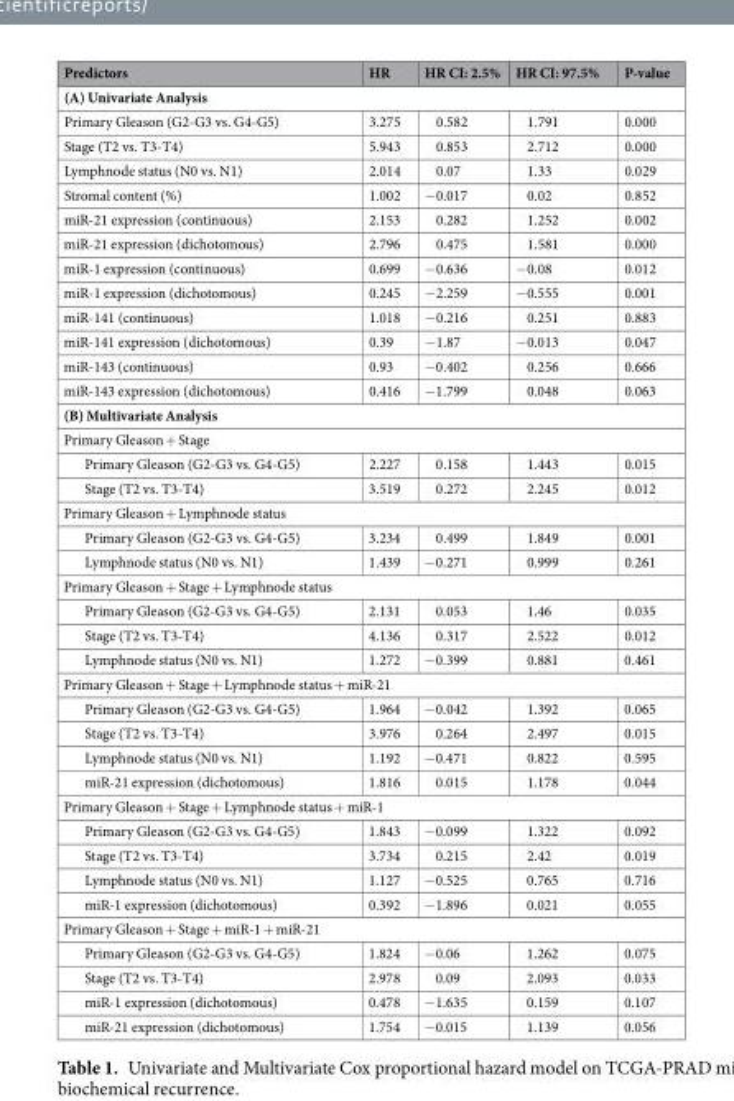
<table><thead><tr><td>Predictors</td><td>HR</td><td>HR CI: 2.5%</td><td>HR CI: 97.5%</td><td>P-value</td></tr></thead><tbody><tr><td colspan="5">(A) Univariate Analysis</td></tr><tr><td>Primary Gleason (G2-G3 vs. G4-G5)</td><td>3.275</td><td>0.582</td><td>1.791</td><td>0.000</td></tr><tr><td>Stage (T2 vs. T3-T4)</td><td>5.943</td><td>0.853</td><td>2.712</td><td>0.000</td></tr><tr><td>Lymphnode status (N0 vs. N1)</td><td>2.014</td><td>0.07</td><td>1.33</td><td>0.029</td></tr><tr><td>Stromal content (%)</td><td>1.002</td><td>−0.017</td><td>0.02</td><td>0.852</td></tr><tr><td>miR-21 expression (continuous)</td><td>2.153</td><td>0.282</td><td>1.252</td><td>0.002</td></tr><tr><td>miR-21 expression (dichotomous)</td><td>2.796</td><td>0.475</td><td>1.581</td><td>0.000</td></tr><tr><td>miR-1 expression (continuous)</td><td>0.699</td><td>−0.636</td><td>−0.08</td><td>0.012</td></tr><tr><td>miR-1 expression (dichotomous)</td><td>0.245</td><td>−2.259</td><td>−0.555</td><td>0.001</td></tr><tr><td>miR-141 (continuous)</td><td>1.018</td><td>−0.216</td><td>0.251</td><td>0.883</td></tr><tr><td>miR-141 expression (dichotomous)</td><td>0.39</td><td>−1.87</td><td>−0.013</td><td>0.047</td></tr><tr><td>miR-143 (continuous)</td><td>0.93</td><td>−0.402</td><td>0.256</td><td>0.666</td></tr><tr><td>miR-143 expression (dichotomous)</td><td>0.416</td><td>−1.799</td><td>0.048</td><td>0.063</td></tr><tr><td colspan="5">(B) Multivariate Analysis</td></tr><tr><td colspan="5">Primary Gleason + Stage</td></tr><tr><td>Primary Gleason (G2-G3 vs. G4-G5)</td><td>2.227</td><td>0.158</td><td>1.443</td><td>0.015</td></tr><tr><td>Stage (T2 vs. T3-T4)</td><td>3.519</td><td>0.272</td><td>2.245</td><td>0.012</td></tr><tr><td colspan="5">Primary Gleason + Lymphnode status</td></tr><tr><td>Primary Gleason (G2-G3 vs. G4-G5)</td><td>3.234</td><td>0.499</td><td>1.849</td><td>0.001</td></tr><tr><td>Lymphnode status (N0 vs. N1)</td><td>1.439</td><td>−0.271</td><td>0.999</td><td>0.261</td></tr><tr><td colspan="5">Primary Gleason + Stage + Lymphnode status</td></tr><tr><td>Primary Gleason (G2-G3 vs. G4-G5)</td><td>2.131</td><td>0.053</td><td>1.46</td><td>0.035</td></tr><tr><td>Stage (T2 vs. T3-T4)</td><td>4.136</td><td>0.317</td><td>2.522</td><td>0.012</td></tr><tr><td>Lymphnode status (N0 vs. N1)</td><td>1.272</td><td>−0.399</td><td>0.881</td><td>0.461</td></tr><tr><td colspan="5">Primary Gleason + Stage + Lymphnode status + miR-21</td></tr><tr><td>Primary Gleason (G2-G3 vs. G4-G5)</td><td>1.964</td><td>−0.042</td><td>1.392</td><td>0.065</td></tr><tr><td>Stage (T2 vs. T3-T4)</td><td>3.976</td><td>0.264</td><td>2.497</td><td>0.015</td></tr><tr><td>Lymphnode status (N0 vs. N1)</td><td>1.192</td><td>−0.471</td><td>0.822</td><td>0.595</td></tr><tr><td>miR-21 expression (dichotomous)</td><td>1.816</td><td>0.015</td><td>1.178</td><td>0.044</td></tr><tr><td colspan="5">Primary Gleason + Stage + Lymphnode status + miR-1</td></tr><tr><td>Primary Gleason (G2-G3 vs. G4-G5)</td><td>1.843</td><td>−0.099</td><td>1.322</td><td>0.092</td></tr><tr><td>Stage (T2 vs. T3-T4)</td><td>3.734</td><td>0.215</td><td>2.42</td><td>0.019</td></tr><tr><td>Lymphnode status (N0 vs. N1)</td><td>1.127</td><td>−0.525</td><td>0.765</td><td>0.716</td></tr><tr><td>miR-1 expression (dichotomous)</td><td>0.392</td><td>−1.896</td><td>0.021</td><td>0.055</td></tr><tr><td colspan="5">Primary Gleason + Stage + miR-1 + miR-21</td></tr><tr><td>Primary Gleason (G2-G3 vs. G4-G5)</td><td>1.824</td><td>−0.06</td><td>1.262</td><td>0.075</td></tr><tr><td>Stage (T2 vs. T3-T4)</td><td>2.978</td><td>0.09</td><td>2.093</td><td>0.033</td></tr><tr><td>miR-1 expression (dichotomous)</td><td>0.478</td><td>−1.635</td><td>0.159</td><td>0.107</td></tr><tr><td>miR-21 expression (dichotomous)</td><td>1.754</td><td>−0.015</td><td>1.139</td><td>0.056</td></tr></tbody></table>